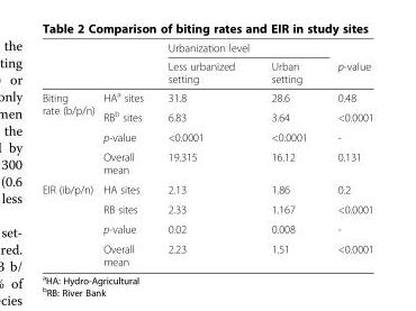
<table><thead><tr><td rowspan="2"></td><td rowspan="2"></td><td colspan="2">Urbanization level</td><td rowspan="2">p-value</td></tr><tr><td>Less urbanized setting</td><td>Urban setting</td></tr></thead><tbody><tr><td rowspan="4">Biting rate (b/p/n)</td><td>HA<sup>a</sup> sites</td><td>31.8</td><td>28.6</td><td>0.48</td></tr><tr><td>RB<sup>b</sup> sites</td><td>6.83</td><td>3.64</td><td>&lt;0.0001</td></tr><tr><td>p-value</td><td>&lt;0.0001</td><td>&lt;0.0001</td><td>-</td></tr><tr><td>Overall mean</td><td>19.315</td><td>16.12</td><td>0.131</td></tr><tr><td rowspan="4">EIR (ib/p/n)</td><td>HA sites</td><td>2.13</td><td>1.86</td><td>0.2</td></tr><tr><td>RB sites</td><td>2.33</td><td>1.167</td><td>&lt;0.0001</td></tr><tr><td>p-value</td><td>0.02</td><td>0.008</td><td>-</td></tr><tr><td>Overall mean</td><td>2.23</td><td>1.51</td><td>&lt;0.0001</td></tr></tbody></table>